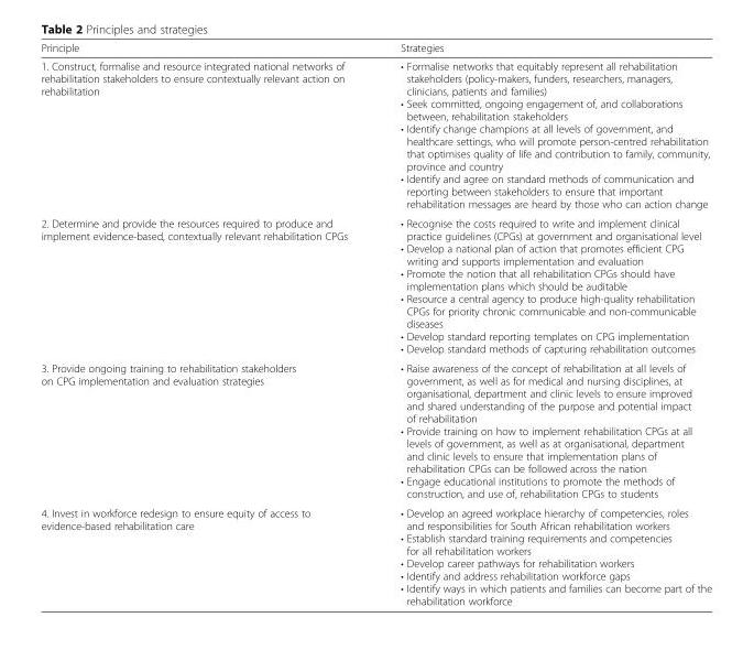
<table><thead><tr><td>Principle</td><td>Strategies</td></tr></thead><tbody><tr><td>1. Construct, formalise and resource integrated national networks of rehabilitation stakeholders to ensure contextually relevant action on rehabilitation</td><td>• Formalise networks that equitably represent all rehabilitation stakeholders (policy-makers, funders, researchers, managers, clinicians, patients and families) • Seek committed, ongoing engagement of, and collaborations between, rehabilitation stakeholders • Identify change champions at all levels of government, and healthcare settings, who will promote person-centred rehabilitation that optimises quality of life and contribution to family, community, province and country • Identify and agree on standard methods of communication and reporting between stakeholders to ensure that important rehabilitation messages are heard by those who can action change</td></tr><tr><td>2. Determine and provide the resources required to produce and implement evidence-based, contextually relevant rehabilitation CPGs</td><td>• Recognise the costs required to write and implement clinical practice guidelines (CPGs) at government and organisational level • Develop a national plan of action that promotes efficient CPG writing and supports implementation and evaluation • Promote the notion that all rehabilitation CPGs should have implementation plans which should be auditable • Resource a central agency to produce high-quality rehabilitation CPGs for priority chronic communicable and non-communicable diseases • Develop standard reporting templates on CPG implementation • Develop standard methods of capturing rehabilitation outcomes</td></tr><tr><td>3. Provide ongoing training to rehabilitation stakeholders on CPG implementation and evaluation strategies</td><td>• Raise awareness of the concept of rehabilitation at all levels of government, as well as for medical and nursing disciplines, at organisational, department and clinic levels to ensure improved and shared understanding of the purpose and potential impact of rehabilitation • Provide training on how to implement rehabilitation CPGs at all levels of government, as well as at organisational, department and clinic levels to ensure that implementation plans of rehabilitation CPGs can be followed across the nation • Engage educational institutions to promote the methods of construction, and use of, rehabilitation CPGs to students</td></tr><tr><td>4. Invest in workforce redesign to ensure equity of access to evidence-based rehabilitation care</td><td>• Develop an agreed workplace hierarchy of competencies, roles and responsibilities for South African rehabilitation workers • Establish standard training requirements and competencies for all rehabilitation workers • Develop career pathways for rehabilitation workers • Identify and address rehabilitation workforce gaps • Identify ways in which patients and families can become part of the rehabilitation workforce</td></tr></tbody></table>